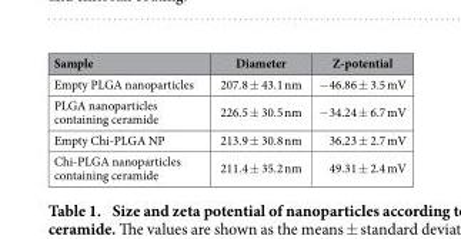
<table><thead><tr><td>Sample</td><td>Diameter</td><td>Z-potential</td></tr></thead><tbody><tr><td>Empty PLGA nanoparticles</td><td>207.8 ± 43.1 nm</td><td>− 46.86 ± 3.5 mV</td></tr><tr><td>PLGA nanoparticles containing ceramide</td><td>226.5 ± 30.5 nm</td><td>− 34.24 ± 6.7 mV</td></tr><tr><td>Empty Chi-PLGA NP</td><td>213.9 ± 30.8 nm</td><td>36.23 ± 2.7 mV</td></tr><tr><td>Chi-PLGA nanoparticles containing ceramide</td><td>211.4 ± 35.2 nm</td><td>49.31 ± 2.4 mV</td></tr></tbody></table>